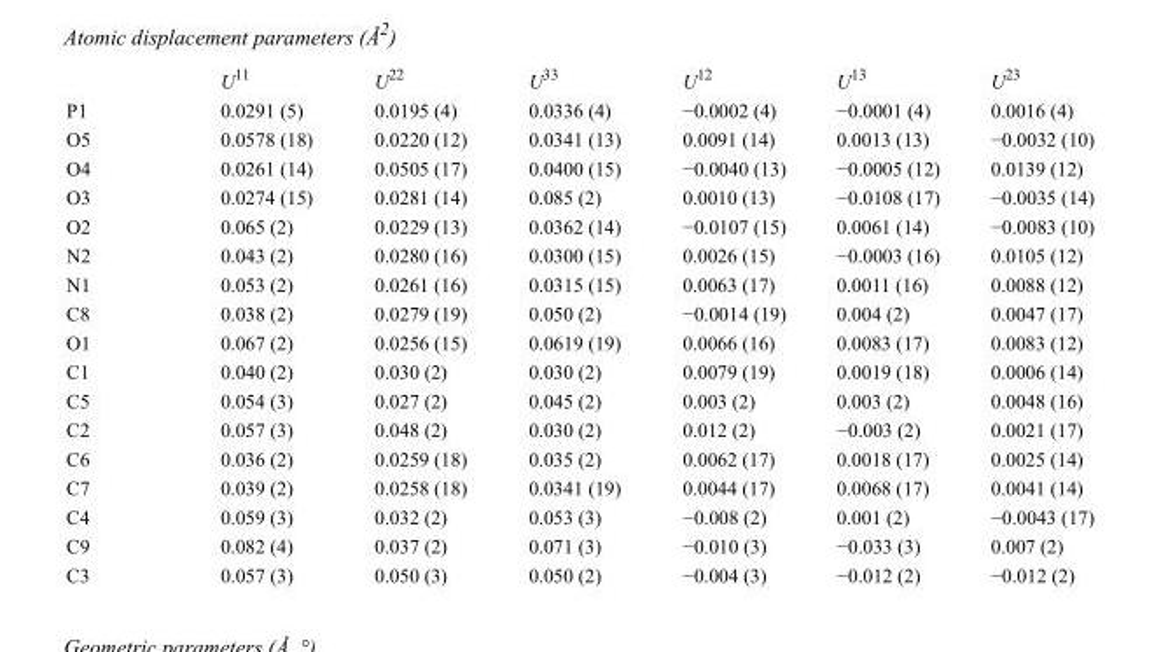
<table><thead><tr><td></td><td>U<sup>11</sup></td><td>U<sup>22</sup></td><td>U<sup>33</sup></td><td>U<sup>12</sup></td><td>U<sup>13</sup></td><td>U<sup>23</sup></td></tr></thead><tbody><tr><td>P1</td><td>0.0291 (5)</td><td>0.0195 (4)</td><td>0.0336 (4)</td><td>−0.0002 (4)</td><td>−0.0001 (4)</td><td>0.0016 (4)</td></tr><tr><td>O5</td><td>0.0578 (18)</td><td>0.0220 (12)</td><td>0.0341 (13)</td><td>0.0091 (14)</td><td>0.0013 (13)</td><td>−0.0032 (10)</td></tr><tr><td>O4</td><td>0.0261 (14)</td><td>0.0505 (17)</td><td>0.0400 (15)</td><td>−0.0040 (13)</td><td>−0.0005 (12)</td><td>0.0139 (12)</td></tr><tr><td>O3</td><td>0.0274 (15)</td><td>0.0281 (14)</td><td>0.085 (2)</td><td>0.0010 (13)</td><td>−0.0108 (17)</td><td>−0.0035 (14)</td></tr><tr><td>O2</td><td>0.065 (2)</td><td>0.0229 (13)</td><td>0.0362 (14)</td><td>−0.0107 (15)</td><td>0.0061 (14)</td><td>−0.0083 (10)</td></tr><tr><td>N2</td><td>0.043 (2)</td><td>0.0280 (16)</td><td>0.0300 (15)</td><td>0.0026 (15)</td><td>−0.0003 (16)</td><td>0.0105 (12)</td></tr><tr><td>N1</td><td>0.053 (2)</td><td>0.0261 (16)</td><td>0.0315 (15)</td><td>0.0063 (17)</td><td>0.0011 (16)</td><td>0.0088 (12)</td></tr><tr><td>C8</td><td>0.038 (2)</td><td>0.0279 (19)</td><td>0.050 (2)</td><td>−0.0014 (19)</td><td>0.004 (2)</td><td>0.0047 (17)</td></tr><tr><td>O1</td><td>0.067 (2)</td><td>0.0256 (15)</td><td>0.0619 (19)</td><td>0.0066 (16)</td><td>0.0083 (17)</td><td>0.0083 (12)</td></tr><tr><td>C1</td><td>0.040 (2)</td><td>0.030 (2)</td><td>0.030 (2)</td><td>0.0079 (19)</td><td>0.0019 (18)</td><td>0.0006 (14)</td></tr><tr><td>C5</td><td>0.054 (3)</td><td>0.027 (2)</td><td>0.045 (2)</td><td>0.003 (2)</td><td>0.003 (2)</td><td>0.0048 (16)</td></tr><tr><td>C2</td><td>0.057 (3)</td><td>0.048 (2)</td><td>0.030 (2)</td><td>0.012 (2)</td><td>−0.003 (2)</td><td>0.0021 (17)</td></tr><tr><td>C6</td><td>0.036 (2)</td><td>0.0259 (18)</td><td>0.035 (2)</td><td>0.0062 (17)</td><td>0.0018 (17)</td><td>0.0025 (14)</td></tr><tr><td>C7</td><td>0.039 (2)</td><td>0.0258 (18)</td><td>0.0341 (19)</td><td>0.0044 (17)</td><td>0.0068 (17)</td><td>0.0041 (14)</td></tr><tr><td>C4</td><td>0.059 (3)</td><td>0.032 (2)</td><td>0.053 (3)</td><td>−0.008 (2)</td><td>0.001 (2)</td><td>−0.0043 (17)</td></tr><tr><td>C9</td><td>0.082 (4)</td><td>0.037 (2)</td><td>0.071 (3)</td><td>−0.010 (3)</td><td>−0.033 (3)</td><td>0.007 (2)</td></tr><tr><td>C3</td><td>0.057 (3)</td><td>0.050 (3)</td><td>0.050 (2)</td><td>−0.004 (3)</td><td>−0.012 (2)</td><td>−0.012 (2)</td></tr></tbody></table>